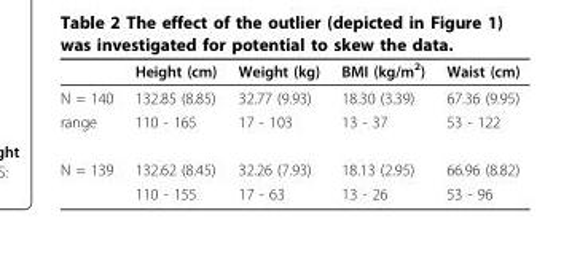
<table><thead><tr><td></td><td>Height (cm)</td><td>Weight (kg)</td><td>BMI (kg/m<sup>2</sup>)</td><td>Waist (cm)</td></tr></thead><tbody><tr><td>N = 140</td><td>132.85 (8.85)</td><td>32.77 (9.93)</td><td>18.30 (3.39)</td><td>67.36 (9.95)</td></tr><tr><td>range</td><td>110 - 165</td><td>17 - 103</td><td>13 - 37</td><td>53 - 122</td></tr><tr><td rowspan="2">N = 139</td><td>132.62 (8.45)</td><td>32.26 (7.93)</td><td>18.13 (2.95)</td><td>66.96 (8.82)</td></tr><tr><td>110 - 155</td><td>17 - 63</td><td>13 - 26</td><td>53 - 96</td></tr></tbody></table>